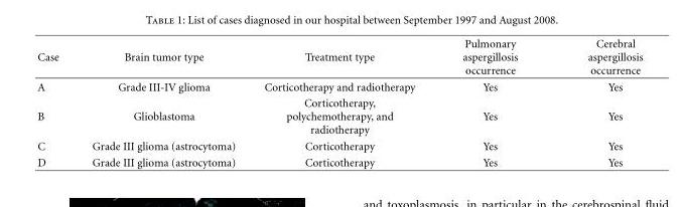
<table><thead><tr><td>Case</td><td>Brain tumor type</td><td>Treatment type</td><td>Pulmonary aspergillosis occurrence</td><td>Cerebral aspergillosis occurrence</td></tr></thead><tbody><tr><td>A</td><td>Grade III-IV glioma</td><td>Corticotherapy and radiotherapy</td><td>Yes</td><td>Yes</td></tr><tr><td>B</td><td>Glioblastoma</td><td>Corticotherapy, polychemotherapy, and radiotherapy</td><td>Yes</td><td>Yes</td></tr><tr><td>C</td><td>Grade III glioma (astrocytoma)</td><td>Corticotherapy</td><td>Yes</td><td>Yes</td></tr><tr><td>D</td><td>Grade III glioma (astrocytoma)</td><td>Corticotherapy</td><td>Yes</td><td>Yes</td></tr></tbody></table>